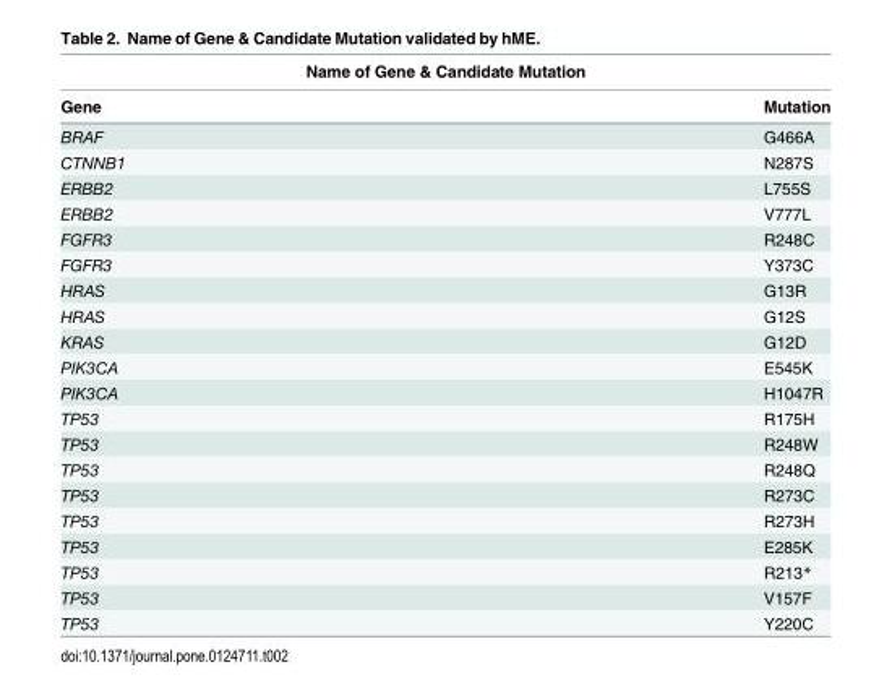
<table><thead><tr><td colspan="2">Name of Gene &amp; Candidate Mutation</td></tr><tr><td>Gene</td><td>Mutation</td></tr></thead><tbody><tr><td>BRAF</td><td>G466A</td></tr><tr><td>CTNNB1</td><td>N287S</td></tr><tr><td>ERBB2</td><td>L755S</td></tr><tr><td>ERBB2</td><td>V777L</td></tr><tr><td>FGFR3</td><td>R248C</td></tr><tr><td>FGFR3</td><td>Y373C</td></tr><tr><td>HRAS</td><td>G13R</td></tr><tr><td>HRAS</td><td>G12S</td></tr><tr><td>KRAS</td><td>G12D</td></tr><tr><td>PIK3CA</td><td>E545K</td></tr><tr><td>PIK3CA</td><td>H1047R</td></tr><tr><td>TP53</td><td>R175H</td></tr><tr><td>TP53</td><td>R248W</td></tr><tr><td>TP53</td><td>R248Q</td></tr><tr><td>TP53</td><td>R273C</td></tr><tr><td>TP53</td><td>R273H</td></tr><tr><td>TP53</td><td>E285K</td></tr><tr><td>TP53</td><td>R213*</td></tr><tr><td>TP53</td><td>V157F</td></tr><tr><td>TP53</td><td>Y220C</td></tr></tbody></table>